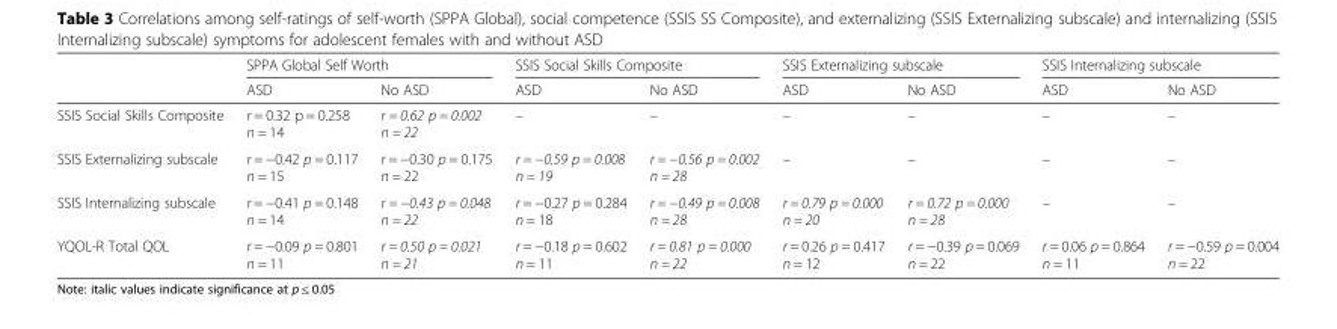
<table><thead><tr><td rowspan="2"></td><td colspan="2">SPPA Global Self Worth</td><td colspan="2">SSIS Social Skills Composite</td><td colspan="2">SSIS Externalizing subscale</td><td colspan="2">SSIS Internalizing subscale</td></tr><tr><td>ASD</td><td>No ASD</td><td>ASD</td><td>No ASD</td><td>ASD</td><td>No ASD</td><td>ASD</td><td>No ASD</td></tr></thead><tbody><tr><td>SSIS Social Skills Composite</td><td>r = 0.32 p = 0.258 n = 14</td><td>r = 0.62 p = 0.002 n = 22</td><td>–</td><td>–</td><td>–</td><td>–</td><td>–</td><td>–</td></tr><tr><td>SSIS Externalizing subscale</td><td>r = −0.42 p = 0.117 n = 15</td><td>r = −0.30 p = 0.175 n = 22</td><td>r = −0.59 p = 0.008 n = 19</td><td>r = −0.56 p = 0.002 n = 28</td><td>–</td><td>–</td><td>–</td><td>–</td></tr><tr><td>SSIS Internalizing subscale</td><td>r = −0.41 p = 0.148 n = 14</td><td>r = −0.43 p = 0.048 n = 22</td><td>r = −0.27 p = 0.284 n = 18</td><td>r = −0.49 p = 0.008 n = 28</td><td>r = 0.79 p = 0.000 n = 20</td><td>r = 0.72 p = 0.000 n = 28</td><td>–</td><td>–</td></tr><tr><td>YQOL-R Total QOL</td><td>r = −0.09 p = 0.801 n = 11</td><td>r = 0.50 p = 0.021 n = 21</td><td>r = −0.18 p = 0.602 n = 11</td><td>r = 0.81 p = 0.000 n = 22</td><td>r = 0.26 p = 0.417 n = 12</td><td>r = −0.39 p = 0.069 n = 22</td><td>r = 0.06 p = 0.864 n = 11</td><td>r = −0.59 p = 0.004 n = 22</td></tr></tbody></table>